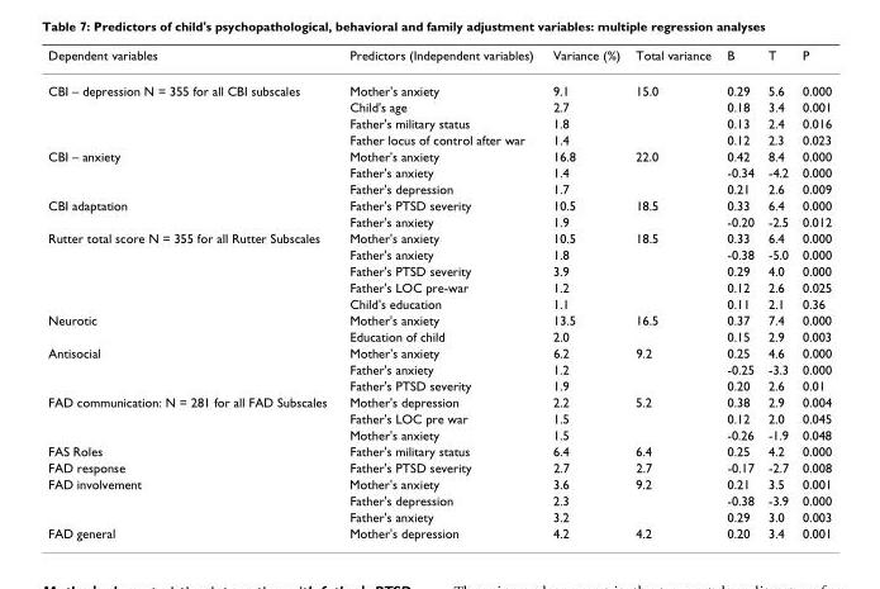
<table><thead><tr><td>Dependent variables</td><td>Predictors (Independent variables)</td><td>Variance (%)</td><td>Total variance</td><td>B</td><td>T</td><td>P</td></tr></thead><tbody><tr><td rowspan="4">CBI – depression N = 355 for all CBI subscales</td><td>Mother&#x27;s anxiety</td><td>9.1</td><td>15.0</td><td>0.29</td><td>5.6</td><td>0.000</td></tr><tr><td>Child&#x27;s age</td><td>2.7</td><td></td><td>0.18</td><td>3.4</td><td>0.001</td></tr><tr><td>Father&#x27;s military status</td><td>1.8</td><td></td><td>0.13</td><td>2.4</td><td>0.016</td></tr><tr><td>Father locus of control after war</td><td>1.4</td><td></td><td>0.12</td><td>2.3</td><td>0.023</td></tr><tr><td rowspan="3">CBI – anxiety</td><td>Mother&#x27;s anxiety</td><td>16.8</td><td>22.0</td><td>0.42</td><td>8.4</td><td>0.000</td></tr><tr><td>Father&#x27;s anxiety</td><td>1.4</td><td></td><td>-0.34</td><td>-4.2</td><td>0.000</td></tr><tr><td>Father&#x27;s depression</td><td>1.7</td><td></td><td>0.21</td><td>2.6</td><td>0.009</td></tr><tr><td rowspan="2">CBI adaptation</td><td>Father&#x27;s PTSD severity</td><td>10.5</td><td>18.5</td><td>0.33</td><td>6.4</td><td>0.000</td></tr><tr><td>Father&#x27;s anxiety</td><td>1.9</td><td></td><td>-0.20</td><td>-2.5</td><td>0.012</td></tr><tr><td rowspan="5">Rutter total score N = 355 for all Rutter Subscales</td><td>Mother&#x27;s anxiety</td><td>10.5</td><td>18.5</td><td>0.33</td><td>6.4</td><td>0.000</td></tr><tr><td>Father&#x27;s anxiety</td><td>1.8</td><td></td><td>-0.38</td><td>-5.0</td><td>0.000</td></tr><tr><td>Father&#x27;s PTSD severity</td><td>3.9</td><td></td><td>0.29</td><td>4.0</td><td>0.000</td></tr><tr><td>Father&#x27;s LOC pre-war</td><td>1.2</td><td></td><td>0.12</td><td>2.6</td><td>0.025</td></tr><tr><td>Child&#x27;s education</td><td>1.1</td><td></td><td>0.11</td><td>2.1</td><td>0.36</td></tr><tr><td rowspan="2">Neurotic</td><td>Mother&#x27;s anxiety</td><td>13.5</td><td>16.5</td><td>0.37</td><td>7.4</td><td>0.000</td></tr><tr><td>Education of child</td><td>2.0</td><td></td><td>0.15</td><td>2.9</td><td>0.003</td></tr><tr><td rowspan="3">Antisocial</td><td>Mother&#x27;s anxiety</td><td>6.2</td><td>9.2</td><td>0.25</td><td>4.6</td><td>0.000</td></tr><tr><td>Father&#x27;s anxiety</td><td>1.2</td><td></td><td>-0.25</td><td>-3.3</td><td>0.000</td></tr><tr><td>Father&#x27;s PTSD severity</td><td>1.9</td><td></td><td>0.20</td><td>2.6</td><td>0.01</td></tr><tr><td rowspan="3">FAD communication: N = 281 for all FAD Subscales</td><td>Mother&#x27;s depression</td><td>2.2</td><td>5.2</td><td>0.38</td><td>2.9</td><td>0.004</td></tr><tr><td>Father&#x27;s LOC pre war</td><td>1.5</td><td></td><td>0.12</td><td>2.0</td><td>0.045</td></tr><tr><td>Mother&#x27;s anxiety</td><td>1.5</td><td></td><td>-0.26</td><td>-1.9</td><td>0.048</td></tr><tr><td>FAS Roles</td><td>Father&#x27;s military status</td><td>6.4</td><td>6.4</td><td>0.25</td><td>4.2</td><td>0.000</td></tr><tr><td>FAD response</td><td>Father&#x27;s PTSD severity</td><td>2.7</td><td>2.7</td><td>-0.17</td><td>-2.7</td><td>0.008</td></tr><tr><td rowspan="3">FAD involvement</td><td>Mother&#x27;s anxiety</td><td>3.6</td><td>9.2</td><td>0.21</td><td>3.5</td><td>0.001</td></tr><tr><td>Father&#x27;s depression</td><td>2.3</td><td></td><td>-0.38</td><td>-3.9</td><td>0.000</td></tr><tr><td>Father&#x27;s anxiety</td><td>3.2</td><td></td><td>0.29</td><td>3.0</td><td>0.003</td></tr><tr><td>FAD general</td><td>Mother&#x27;s depression</td><td>4.2</td><td>4.2</td><td>0.20</td><td>3.4</td><td>0.001</td></tr></tbody></table>